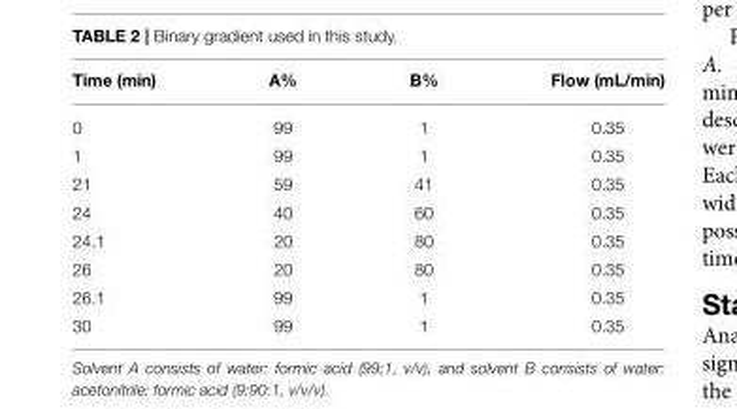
<table><thead><tr><td>Time (min)</td><td>A%</td><td>B%</td><td>Flow (mL/min)</td></tr></thead><tbody><tr><td>0</td><td>99</td><td>1</td><td>0.35</td></tr><tr><td>1</td><td>99</td><td>1</td><td>0.35</td></tr><tr><td>21</td><td>59</td><td>41</td><td>0.35</td></tr><tr><td>24</td><td>40</td><td>60</td><td>0.35</td></tr><tr><td>24.1</td><td>20</td><td>80</td><td>0.35</td></tr><tr><td>26</td><td>20</td><td>80</td><td>0.35</td></tr><tr><td>26.1</td><td>99</td><td>1</td><td>0.35</td></tr><tr><td>30</td><td>99</td><td>1</td><td>0.35</td></tr></tbody></table>